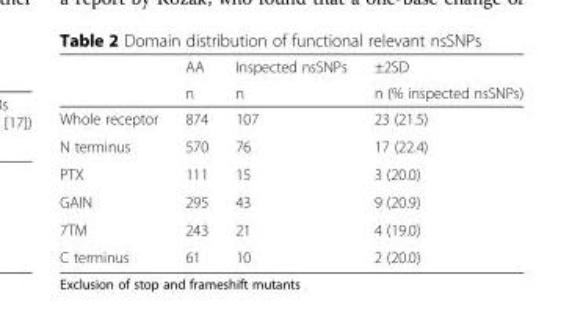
<table><thead><tr><td rowspan="2"></td><td rowspan="2">AA n</td><td rowspan="2">Inspected nsSNPs n</td><td rowspan="2">±2SD n (% inspected nsSNPs)</td></tr><tr></tr></thead><tbody><tr><td>Whole receptor</td><td>874</td><td>107</td><td>23 (21.5)</td></tr><tr><td>N terminus</td><td>570</td><td>76</td><td>17 (22.4)</td></tr><tr><td>PTX</td><td>111</td><td>15</td><td>3 (20.0)</td></tr><tr><td>GAIN</td><td>295</td><td>43</td><td>9 (20.9)</td></tr><tr><td>7TM</td><td>243</td><td>21</td><td>4 (19.0)</td></tr><tr><td>C terminus</td><td>61</td><td>10</td><td>2 (20.0)</td></tr></tbody></table>